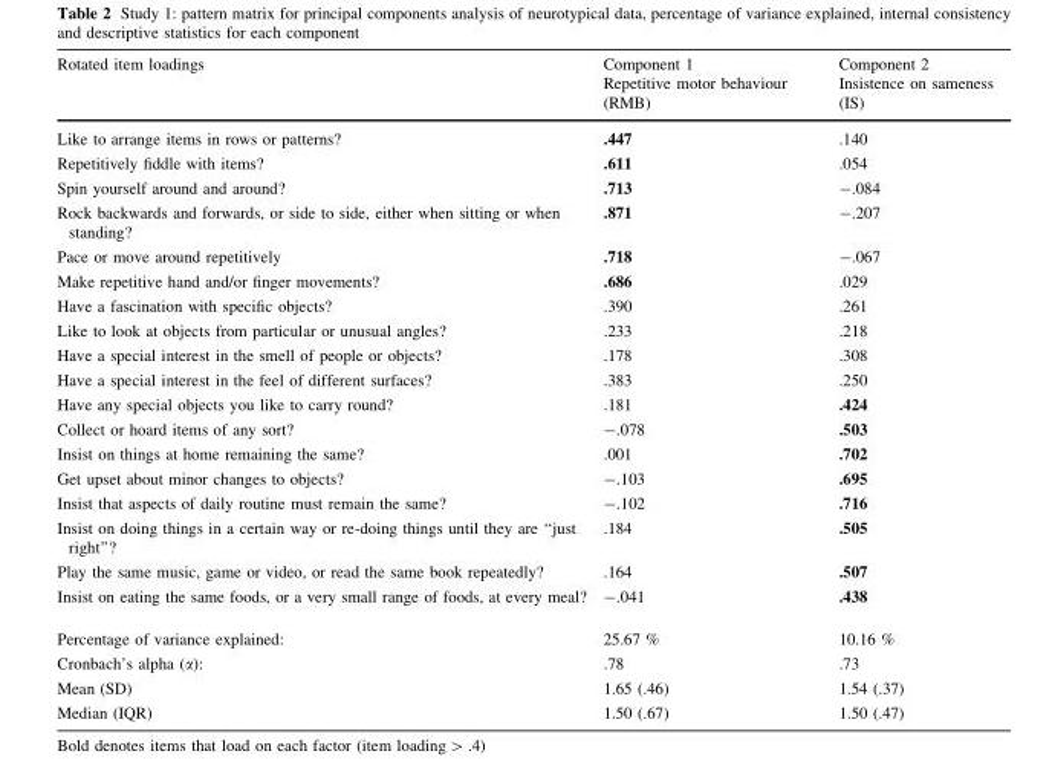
<table><thead><tr><td rowspan="2">Rotated item loadings</td><td rowspan="2">Component 1 Repetitive motor behaviour (RMB)</td><td rowspan="2">Component 2 Insistence on sameness (IS)</td></tr><tr></tr></thead><tbody><tr><td>Like to arrange items in rows or patterns?</td><td>.447</td><td>.140</td></tr><tr><td>Repetitively fiddle with items?</td><td>.611</td><td>.054</td></tr><tr><td>Spin yourself around and around?</td><td>.713</td><td>-.084</td></tr><tr><td>Rock backwards and forwards, or side to side, either when sitting or when standing?</td><td>.871</td><td>-.207</td></tr><tr><td>Pace or move around repetitively</td><td>.718</td><td>-.067</td></tr><tr><td>Make repetitive hand and/or finger movements?</td><td>.686</td><td>.029</td></tr><tr><td>Have a fascination with specific objects?</td><td>.390</td><td>.261</td></tr><tr><td>Like to look at objects from particular or unusual angles?</td><td>.233</td><td>.218</td></tr><tr><td>Have a special interest in the smell of people or objects?</td><td>.178</td><td>.308</td></tr><tr><td>Have a special interest in the feel of different surfaces?</td><td>.383</td><td>.250</td></tr><tr><td>Have any special objects you like to carry round?</td><td>.181</td><td>.424</td></tr><tr><td>Collect or hoard items of any sort?</td><td>-.078</td><td>.503</td></tr><tr><td>Insist on things at home remaining the same?</td><td>.001</td><td>.702</td></tr><tr><td>Get upset about minor changes to objects?</td><td>-.103</td><td>.695</td></tr><tr><td>Insist that aspects of daily routine must remain the same?</td><td>-.102</td><td>.716</td></tr><tr><td>Insist on doing things in a certain way or re-doing things until they are ‘‘just right’’?</td><td>.184</td><td>.505</td></tr><tr><td>Play the same music, game or video, or read the same book repeatedly?</td><td>.164</td><td>.507</td></tr><tr><td>Insist on eating the same foods, or a very small range of foods, at every meal?</td><td>-.041</td><td>.438</td></tr><tr><td>Percentage of variance explained:</td><td>25.67 %</td><td>10.16 %</td></tr><tr><td>Cronbach’s alpha (α):</td><td>.78</td><td>.73</td></tr><tr><td>Mean (SD)</td><td>1.65 (.46)</td><td>1.54 (.37)</td></tr><tr><td>Median (IQR)</td><td>1.50 (.67)</td><td>1.50 (.47)</td></tr></tbody></table>